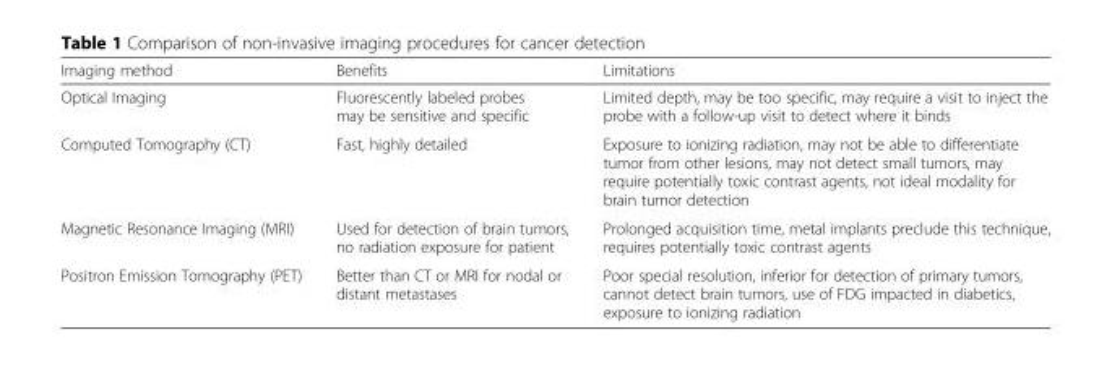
<table><thead><tr><td>Imaging method</td><td>Benefits</td><td>Limitations</td></tr></thead><tbody><tr><td>Optical Imaging</td><td>Fluorescently labeled probes may be sensitive and specific</td><td>Limited depth, may be too specific, may require a visit to inject the probe with a follow-up visit to detect where it binds</td></tr><tr><td>Computed Tomography (CT)</td><td>Fast, highly detailed</td><td>Exposure to ionizing radiation, may not be able to differentiate tumor from other lesions, may not detect small tumors, may require potentially toxic contrast agents, not ideal modality for brain tumor detection</td></tr><tr><td>Magnetic Resonance Imaging (MRI)</td><td>Used for detection of brain tumors, no radiation exposure for patient</td><td>Prolonged acquisition time, metal implants preclude this technique, requires potentially toxic contrast agents</td></tr><tr><td>Positron Emission Tomography (PET)</td><td>Better than CT or MRI for nodal or distant metastases</td><td>Poor special resolution, inferior for detection of primary tumors, cannot detect brain tumors, use of FDG impacted in diabetics, exposure to ionizing radiation</td></tr></tbody></table>